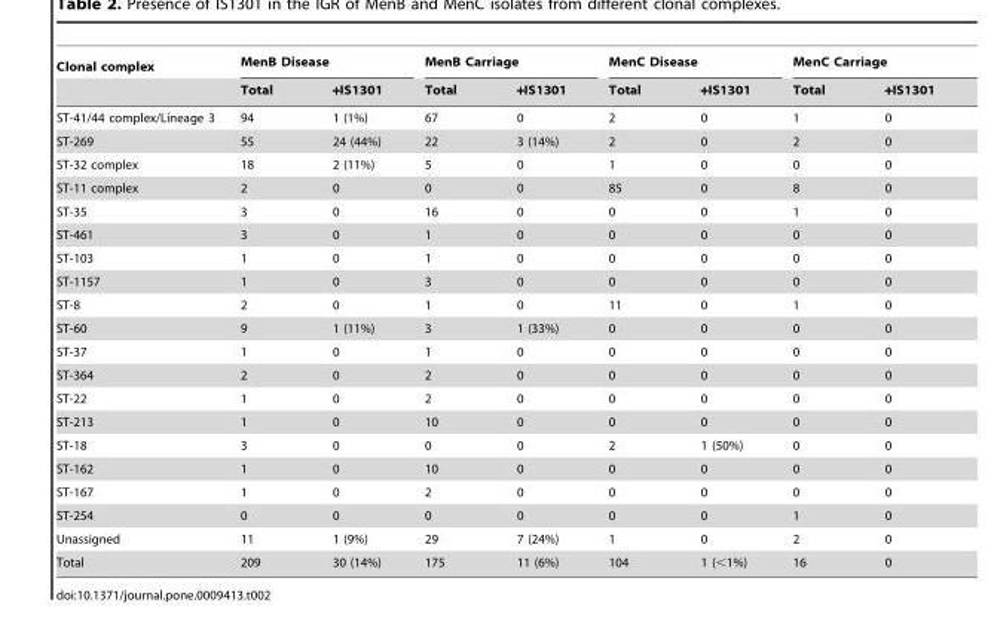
<table><thead><tr><td rowspan="2">Clonal complex</td><td colspan="2">MenB Disease</td><td colspan="2">MenB Carriage</td><td colspan="2">MenC Disease</td><td colspan="2">MenC Carriage</td></tr><tr><td>Total</td><td>+IS1301</td><td>Total</td><td>+IS1301</td><td>Total</td><td>+IS1301</td><td>Total</td><td>+IS1301</td></tr></thead><tbody><tr><td>ST-41/44 complex/Lineage 3</td><td>94</td><td>1 (1%)</td><td>67</td><td>0</td><td>2</td><td>0</td><td>1</td><td>0</td></tr><tr><td>ST-269</td><td>55</td><td>24 (44%)</td><td>22</td><td>3 (14%)</td><td>2</td><td>0</td><td>2</td><td>0</td></tr><tr><td>ST-32 complex</td><td>18</td><td>2 (11%)</td><td>5</td><td>0</td><td>1</td><td>0</td><td>0</td><td>0</td></tr><tr><td>ST-11 complex</td><td>2</td><td>0</td><td>0</td><td>0</td><td>85</td><td>0</td><td>8</td><td>0</td></tr><tr><td>ST-35</td><td>3</td><td>0</td><td>16</td><td>0</td><td>0</td><td>0</td><td>1</td><td>0</td></tr><tr><td>ST-461</td><td>3</td><td>0</td><td>1</td><td>0</td><td>0</td><td>0</td><td>0</td><td>0</td></tr><tr><td>ST-103</td><td>1</td><td>0</td><td>1</td><td>0</td><td>0</td><td>0</td><td>0</td><td>0</td></tr><tr><td>ST-1157</td><td>1</td><td>0</td><td>3</td><td>0</td><td>0</td><td>0</td><td>0</td><td>0</td></tr><tr><td>ST-8</td><td>2</td><td>0</td><td>1</td><td>0</td><td>11</td><td>0</td><td>1</td><td>0</td></tr><tr><td>ST-60</td><td>9</td><td>1 (11%)</td><td>3</td><td>1 (33%)</td><td>0</td><td>0</td><td>0</td><td>0</td></tr><tr><td>ST-37</td><td>1</td><td>0</td><td>1</td><td>0</td><td>0</td><td>0</td><td>0</td><td>0</td></tr><tr><td>ST-364</td><td>2</td><td>0</td><td>2</td><td>0</td><td>0</td><td>0</td><td>0</td><td>0</td></tr><tr><td>ST-22</td><td>1</td><td>0</td><td>2</td><td>0</td><td>0</td><td>0</td><td>0</td><td>0</td></tr><tr><td>ST-213</td><td>1</td><td>0</td><td>10</td><td>0</td><td>0</td><td>0</td><td>0</td><td>0</td></tr><tr><td>ST-18</td><td>3</td><td>0</td><td>0</td><td>0</td><td>2</td><td>1 (50%)</td><td>0</td><td>0</td></tr><tr><td>ST-162</td><td>1</td><td>0</td><td>10</td><td>0</td><td>0</td><td>0</td><td>0</td><td>0</td></tr><tr><td>ST-167</td><td>1</td><td>0</td><td>2</td><td>0</td><td>0</td><td>0</td><td>0</td><td>0</td></tr><tr><td>ST-254</td><td>0</td><td>0</td><td>0</td><td>0</td><td>0</td><td>0</td><td>1</td><td>0</td></tr><tr><td>Unassigned</td><td>11</td><td>1 (9%)</td><td>29</td><td>7 (24%)</td><td>1</td><td>0</td><td>2</td><td>0</td></tr><tr><td>Total</td><td>209</td><td>30 (14%)</td><td>175</td><td>11 (6%)</td><td>104</td><td>1 (&lt;1%)</td><td>16</td><td>0</td></tr></tbody></table>